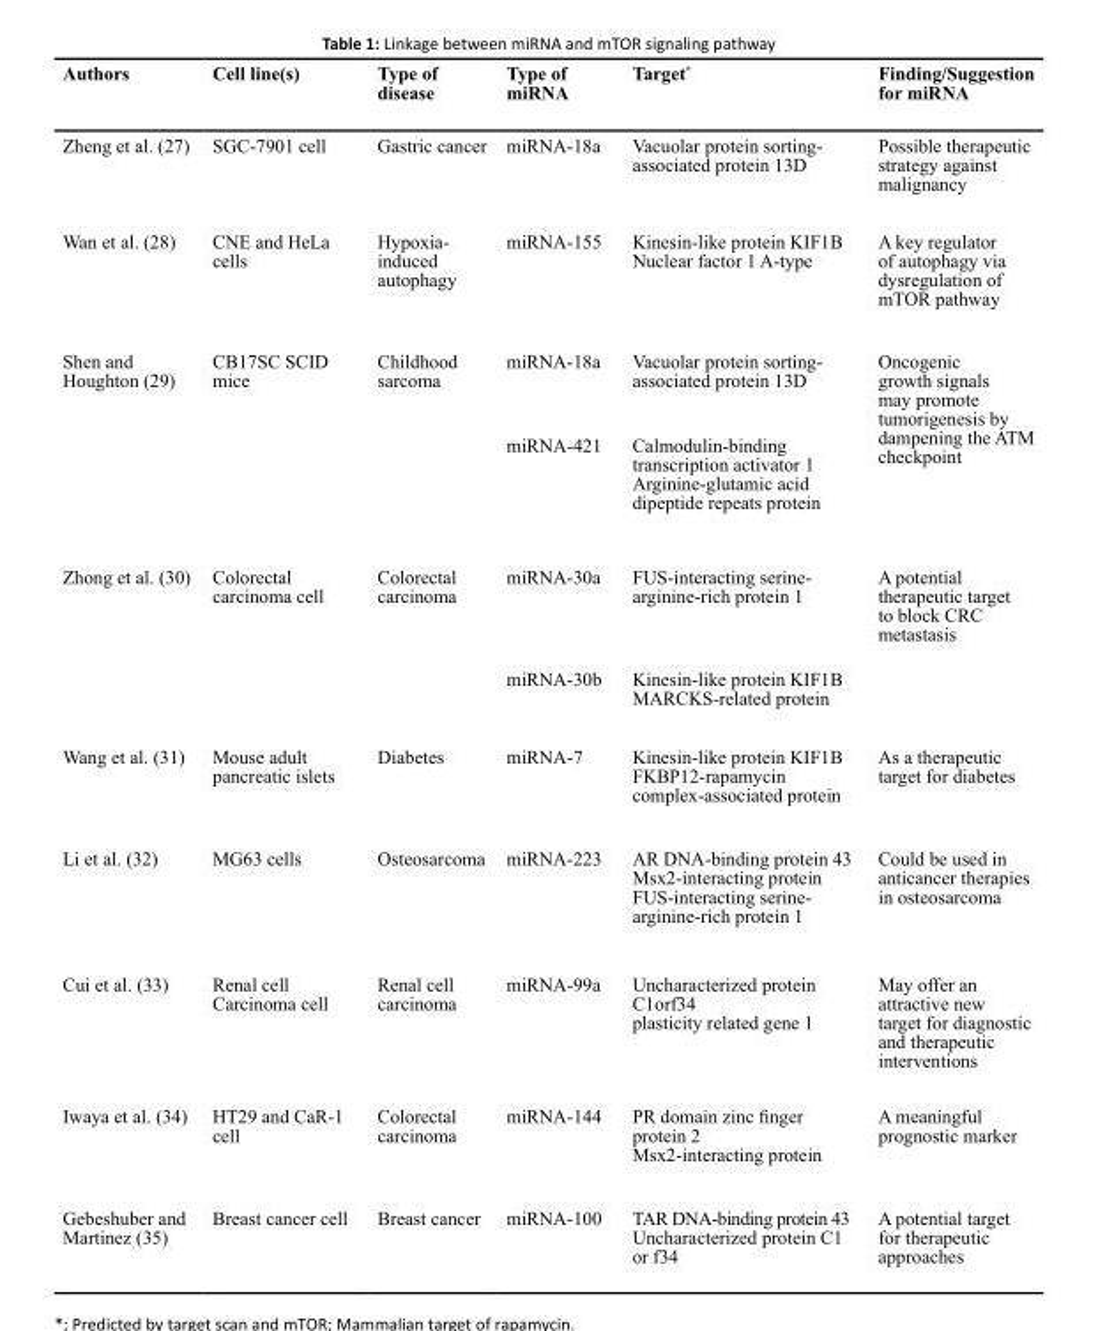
<table><thead><tr><td>Authors</td><td>Cell line(s)</td><td>Type of disease</td><td>Type of miRNA</td><td>Target*</td><td>Finding/Suggestion for miRNA</td></tr></thead><tbody><tr><td>Zheng et al. (27)</td><td>SGC-7901 cell</td><td>Gastric cancer</td><td>miRNA-18a</td><td>Vacuolar protein sorting- associated protein 13D</td><td>Possible therapeutic strategy against malignancy</td></tr><tr><td>Wan et al. (28)</td><td>CNE and HeLa cells</td><td>Hypoxia- induced autophagy</td><td>miRNA-155</td><td>Kinesin-like protein KIF1B Nuclear factor 1 A-type</td><td>A key regulator of autophagy via dysregulation of mTOR pathway</td></tr><tr><td rowspan="2">Shen and Houghton (29)</td><td rowspan="2">CB17SC SCID mice</td><td rowspan="2">Childhood sarcoma</td><td>miRNA-18a</td><td>Vacuolar protein sorting- associated protein 13D</td><td rowspan="2">Oncogenic growth signals may promote tumorigenesis by dampening the ATM checkpoint</td></tr><tr><td>miRNA-421</td><td>Calmodulin-binding transcription activator 1 Arginine-glutamic acid dipeptide repeats protein</td></tr><tr><td rowspan="2">Zhong et al. (30)</td><td rowspan="2">Colorectal carcinoma cell</td><td rowspan="2">Colorectal carcinoma</td><td>miRNA-30a</td><td>FUS-interacting serine- arginine-rich protein 1</td><td rowspan="2">A potential therapeutic target to block CRC metastasis</td></tr><tr><td>miRNA-30b</td><td>Kinesin-like protein KIF1B MARCKS-related protein</td></tr><tr><td>Wang et al. (31)</td><td>Mouse adult pancreatic islets</td><td>Diabetes</td><td>miRNA-7</td><td>Kinesin-like protein KIF1B FKBP12-rapamycin complex-associated protein</td><td>As a therapeutic target for diabetes</td></tr><tr><td>Li et al. (32)</td><td>MG63 cells</td><td>Osteosarcoma</td><td>miRNA-223</td><td>AR DNA-binding protein 43 Msx2-interacting protein FUS-interacting serine- arginine-rich protein 1</td><td>Could be used in anticancer therapies in osteosarcoma</td></tr><tr><td>Cui et al. (33)</td><td>Renal cell Carcinoma cell</td><td>Renal cell carcinoma</td><td>miRNA-99a</td><td>Uncharacterized protein C1orf34 plasticity related gene 1</td><td>May offer an attractive new target for diagnostic and therapeutic interventions</td></tr><tr><td>Iwaya et al. (34)</td><td>HT29 and CaR-1 cell</td><td>Colorectal carcinoma</td><td>miRNA-144</td><td>PR domain zinc finger protein 2 Msx2-interacting protein</td><td>A meaningful prognostic marker</td></tr><tr><td>Gebeshuber and Martinez (35)</td><td>Breast cancer cell</td><td>Breast cancer</td><td>miRNA-100</td><td>TAR DNA-binding protein 43 Uncharacterized protein C1 or f34</td><td>A potential target for therapeutic approaches</td></tr></tbody></table>